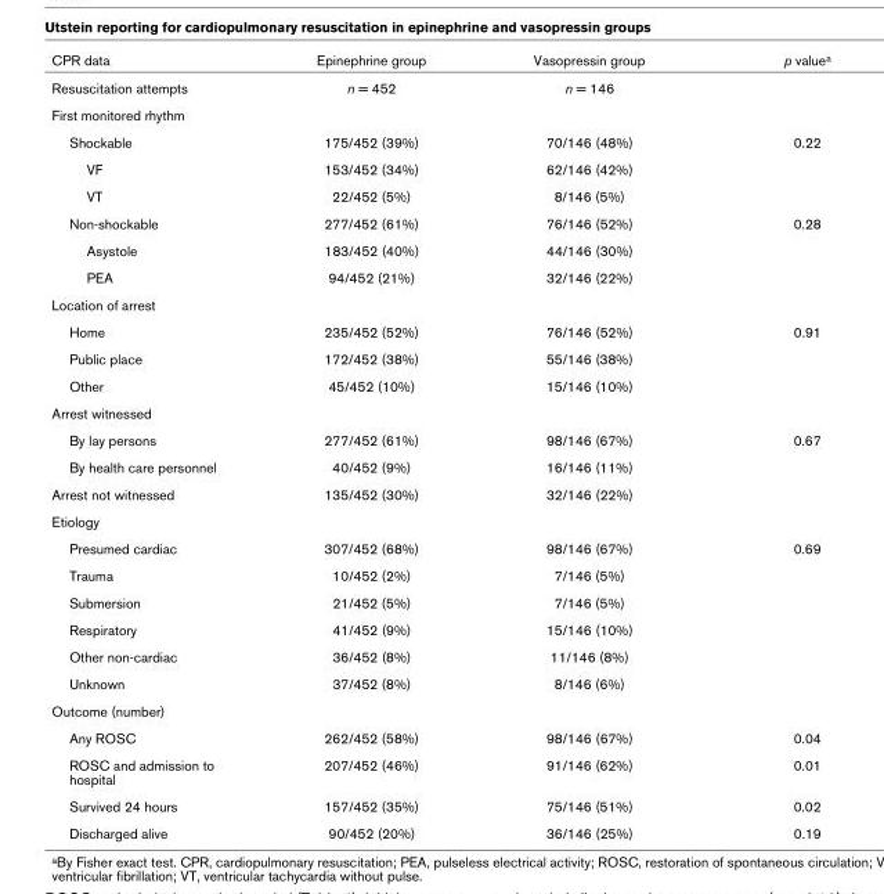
<table><thead><tr><td>CPR data</td><td>Epinephrine group</td><td>Vasopressin group</td><td>p value<sup>a</sup></td></tr></thead><tbody><tr><td>Resuscitation attempts</td><td>n = 452</td><td>n = 146</td><td></td></tr><tr><td colspan="4">First monitored rhythm</td></tr><tr><td>Shockable</td><td>175/452 (39%)</td><td>70/146 (48%)</td><td>0.22</td></tr><tr><td>VF</td><td>153/452 (34%)</td><td>62/146 (42%)</td><td></td></tr><tr><td>VT</td><td>22/452 (5%)</td><td>8/146 (5%)</td><td></td></tr><tr><td>Non-shockable</td><td>277/452 (61%)</td><td>76/146 (52%)</td><td>0.28</td></tr><tr><td>Asystole</td><td>183/452 (40%)</td><td>44/146 (30%)</td><td></td></tr><tr><td>PEA</td><td>94/452 (21%)</td><td>32/146 (22%)</td><td></td></tr><tr><td colspan="4">Location of arrest</td></tr><tr><td>Home</td><td>235/452 (52%)</td><td>76/146 (52%)</td><td>0.91</td></tr><tr><td>Public place</td><td>172/452 (38%)</td><td>55/146 (38%)</td><td></td></tr><tr><td>Other</td><td>45/452 (10%)</td><td>15/146 (10%)</td><td></td></tr><tr><td colspan="4">Arrest witnessed</td></tr><tr><td>By lay persons</td><td>277/452 (61%)</td><td>98/146 (67%)</td><td>0.67</td></tr><tr><td>By health care personnel</td><td>40/452 (9%)</td><td>16/146 (11%)</td><td></td></tr><tr><td>Arrest not witnessed</td><td>135/452 (30%)</td><td>32/146 (22%)</td><td></td></tr><tr><td colspan="4">Etiology</td></tr><tr><td>Presumed cardiac</td><td>307/452 (68%)</td><td>98/146 (67%)</td><td>0.69</td></tr><tr><td>Trauma</td><td>10/452 (2%)</td><td>7/146 (5%)</td><td></td></tr><tr><td>Submersion</td><td>21/452 (5%)</td><td>7/146 (5%)</td><td></td></tr><tr><td>Respiratory</td><td>41/452 (9%)</td><td>15/146 (10%)</td><td></td></tr><tr><td>Other non-cardiac</td><td>36/452 (8%)</td><td>11/146 (8%)</td><td></td></tr><tr><td>Unknown</td><td>37/452 (8%)</td><td>8/146 (6%)</td><td></td></tr><tr><td colspan="4">Outcome (number)</td></tr><tr><td>Any ROSC</td><td>262/452 (58%)</td><td>98/146 (67%)</td><td>0.04</td></tr><tr><td>ROSC and admission to hospital</td><td>207/452 (46%)</td><td>91/146 (62%)</td><td>0.01</td></tr><tr><td>Survived 24 hours</td><td>157/452 (35%)</td><td>75/146 (51%)</td><td>0.02</td></tr><tr><td>Discharged alive</td><td>90/452 (20%)</td><td>36/146 (25%)</td><td>0.19</td></tr></tbody></table>